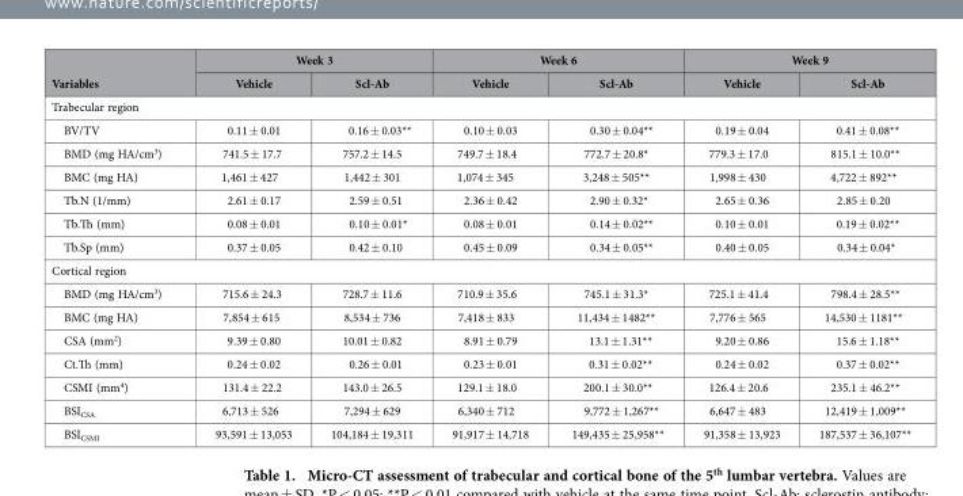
<table><thead><tr><td rowspan="2">Variables</td><td colspan="2">Week 3</td><td colspan="2">Week 6</td><td colspan="2">Week 9</td></tr><tr><td>Vehicle</td><td>Scl-Ab</td><td>Vehicle</td><td>Scl-Ab</td><td>Vehicle</td><td>Scl-Ab</td></tr></thead><tbody><tr><td colspan="7">Trabecular region</td></tr><tr><td>BV/TV</td><td>0.11 ± 0.01</td><td>0.16 ± 0.03**</td><td>0.10 ± 0.03</td><td>0.30 ± 0.04**</td><td>0.19 ± 0.04</td><td>0.41 ± 0.08**</td></tr><tr><td>BMD (mg HA/cm<sup>3</sup>)</td><td>741.5 ± 17.7</td><td>757.2 ± 14.5</td><td>749.7 ± 18.4</td><td>772.7 ± 20.8*</td><td>779.3 ± 17.0</td><td>815.1 ± 10.0**</td></tr><tr><td>BMC (mg HA)</td><td>1,461 ± 427</td><td>1,442 ± 301</td><td>1,074 ± 345</td><td>3,248 ± 505**</td><td>1,998 ± 430</td><td>4,722 ± 892**</td></tr><tr><td>Tb.N (1/mm)</td><td>2.61 ± 0.17</td><td>2.59 ± 0.51</td><td>2.36 ± 0.42</td><td>2.90 ± 0.32*</td><td>2.65 ± 0.36</td><td>2.85 ± 0.20</td></tr><tr><td>Tb.Th (mm)</td><td>0.08 ± 0.01</td><td>0.10 ± 0.01*</td><td>0.08 ± 0.01</td><td>0.14 ± 0.02**</td><td>0.10 ± 0.01</td><td>0.19 ± 0.02**</td></tr><tr><td>Tb.Sp (mm)</td><td>0.37 ± 0.05</td><td>0.42 ± 0.10</td><td>0.45 ± 0.09</td><td>0.34 ± 0.05**</td><td>0.40 ± 0.05</td><td>0.34 ± 0.04*</td></tr><tr><td colspan="7">Cortical region</td></tr><tr><td>BMD (mg HA/cm<sup>3</sup>)</td><td>715.6 ± 24.3</td><td>728.7 ± 11.6</td><td>710.9 ± 35.6</td><td>745.1 ± 31.3*</td><td>725.1 ± 41.4</td><td>798.4 ± 28.5**</td></tr><tr><td>BMC (mg HA)</td><td>7,854 ± 615</td><td>8,534 ± 736</td><td>7,418 ± 833</td><td>11,434 ± 1482**</td><td>7,776 ± 565</td><td>14,530 ± 1181**</td></tr><tr><td>CSA (mm<sup>2</sup>)</td><td>9.39 ± 0.80</td><td>10.01 ± 0.82</td><td>8.91 ± 0.79</td><td>13.1 ± 1.31**</td><td>9.20 ± 0.86</td><td>15.6 ± 1.18**</td></tr><tr><td>Ct.Th (mm)</td><td>0.24 ± 0.02</td><td>0.26 ± 0.01</td><td>0.23 ± 0.01</td><td>0.31 ± 0.02**</td><td>0.24 ± 0.02</td><td>0.37 ± 0.02**</td></tr><tr><td>CSMI (mm<sup>4</sup>)</td><td>131.4 ± 22.2</td><td>143.0 ± 26.5</td><td>129.1 ± 18.0</td><td>200.1 ± 30.0**</td><td>126.4 ± 20.6</td><td>235.1 ± 46.2**</td></tr><tr><td>BSI<sub>CSA</sub></td><td>6,713 ± 526</td><td>7,294 ± 629</td><td>6,340 ± 712</td><td>9,772 ± 1,267**</td><td>6,647 ± 483</td><td>12,419 ± 1,009**</td></tr><tr><td>BSI<sub>CSMI</sub></td><td>93,591 ± 13,053</td><td>104,184 ± 19,311</td><td>91,917 ± 14,718</td><td>149,435 ± 25,958**</td><td>91,358 ± 13,923</td><td>187,537 ± 36,107**</td></tr></tbody></table>